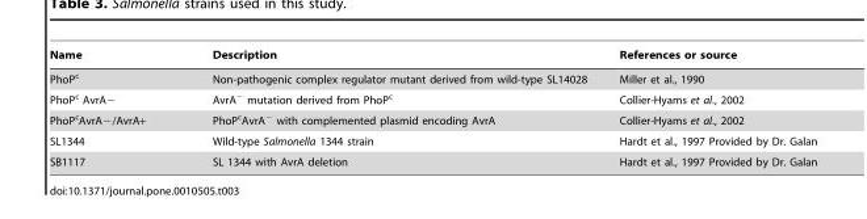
<table><thead><tr><td>Name</td><td>Description</td><td>References or source</td></tr></thead><tbody><tr><td>PhoP<sup>c</sup></td><td>Non-pathogenic complex regulator mutant derived from wild-type SL14028</td><td>Miller et al., 1990</td></tr><tr><td>PhoP<sup>c</sup> AvrA−</td><td>AvrA<sup>−</sup> mutation derived from PhoP<sup>c</sup></td><td>Collier-Hyams et al., 2002</td></tr><tr><td>PhoP<sup>c</sup>AvrA−/AvrA+</td><td>PhoP<sup>c</sup>AvrA<sup>−</sup> with complemented plasmid encoding AvrA</td><td>Collier-Hyams et al., 2002</td></tr><tr><td>SL1344</td><td>Wild-type Salmonella 1344 strain</td><td>Hardt et al., 1997 Provided by Dr. Galan</td></tr><tr><td>SB1117</td><td>SL 1344 with AvrA deletion</td><td>Hardt et al., 1997 Provided by Dr. Galan</td></tr></tbody></table>